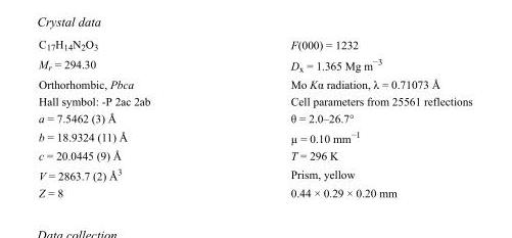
<table><tbody><tr><td>C<sub>17</sub>H<sub>14</sub>N<sub>2</sub>O<sub>3</sub></td><td>F(000) = 1232</td></tr><tr><td>M<sub>r</sub> = 294.30</td><td>D<sub>x</sub> = 1.365 Mg m<sup>−3</sup></td></tr><tr><td>Orthorhombic, Pbca</td><td>Mo Kα radiation, λ = 0.71073 Å</td></tr><tr><td>Hall symbol: -P 2ac 2ab</td><td>Cell parameters from 25561 reflections</td></tr><tr><td>a = 7.5462 (3) Å</td><td>θ = 2.0–26.7°</td></tr><tr><td>b = 18.9324 (11) Å</td><td>µ = 0.10 mm<sup>−1</sup></td></tr><tr><td>c = 20.0445 (9) Å</td><td>T = 296 K</td></tr><tr><td>V = 2863.7 (2) Å<sup>3</sup></td><td>Prism, yellow</td></tr><tr><td>Z = 8</td><td>0.44 × 0.29 × 0.20 mm</td></tr></tbody></table>